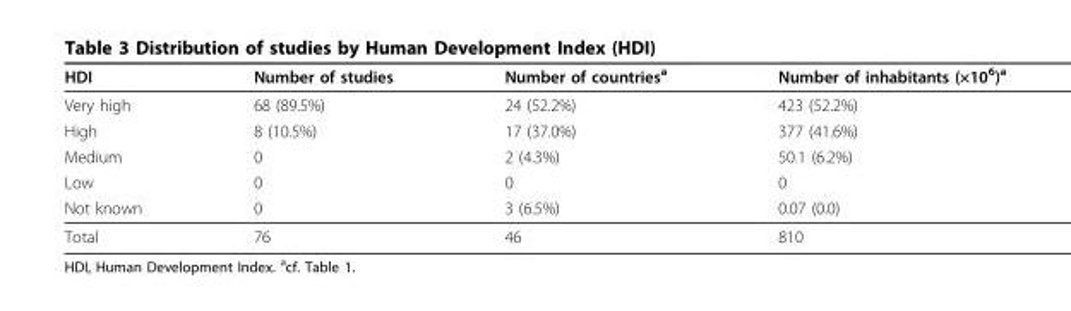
<table><thead><tr><td>HDI</td><td>Number of studies</td><td>Number of countries<sup>a</sup></td><td>Number of inhabitants (×10<sup>6</sup>)<sup>a</sup></td></tr></thead><tbody><tr><td>Very high</td><td>68 (89.5%)</td><td>24 (52.2%)</td><td>423 (52.2%)</td></tr><tr><td>High</td><td>8 (10.5%)</td><td>17 (37.0%)</td><td>377 (41.6%)</td></tr><tr><td>Medium</td><td>0</td><td>2 (4.3%)</td><td>50.1 (6.2%)</td></tr><tr><td>Low</td><td>0</td><td>0</td><td>0</td></tr><tr><td>Not known</td><td>0</td><td>3 (6.5%)</td><td>0.07 (0.0)</td></tr><tr><td>Total</td><td>76</td><td>46</td><td>810</td></tr></tbody></table>